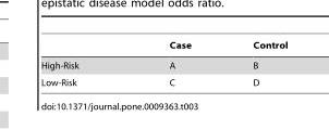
<table><thead><tr><td></td><td>Case</td><td>Control</td></tr></thead><tbody><tr><td>High-Risk</td><td>A</td><td>B</td></tr><tr><td>Low-Risk</td><td>C</td><td>D</td></tr></tbody></table>